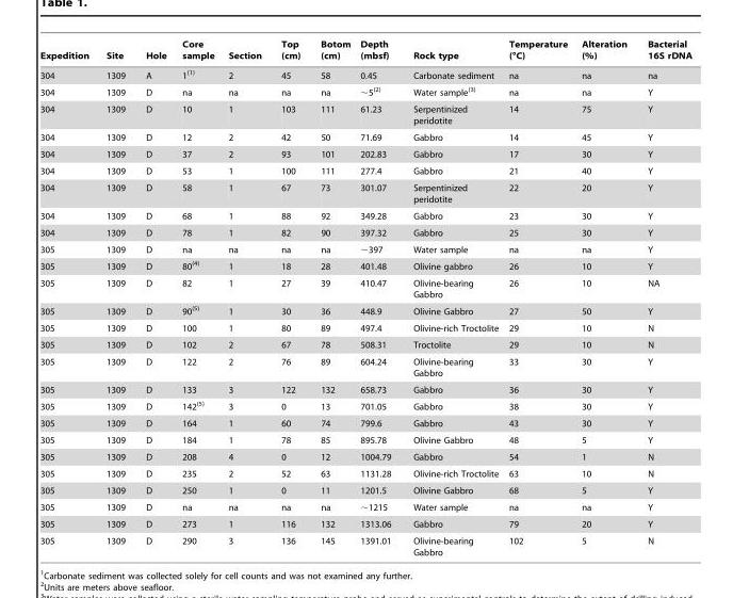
<table><thead><tr><td>Expedition</td><td>Site</td><td>Hole</td><td>Core sample</td><td>Section</td><td>Top (cm)</td><td>Botom (cm)</td><td>Depth (mbsf)</td><td>Rock type</td><td>Temperature (°C)</td><td>Alteration (%)</td><td>Bacterial 16S rDNA</td></tr></thead><tbody><tr><td>304</td><td>1309</td><td>A</td><td>1(1)</td><td>2</td><td>45</td><td>58</td><td>0.45</td><td>Carbonate sediment</td><td>na</td><td>na</td><td>na</td></tr><tr><td>304</td><td>1309</td><td>D</td><td>na</td><td>na</td><td>na</td><td>na</td><td>∼5(2)</td><td>Water sample(3)</td><td>na</td><td>na</td><td>Y</td></tr><tr><td>304</td><td>1309</td><td>D</td><td>10</td><td>1</td><td>103</td><td>111</td><td>61.23</td><td>Serpentinized peridotite</td><td>14</td><td>75</td><td>Y</td></tr><tr><td>304</td><td>1309</td><td>D</td><td>12</td><td>2</td><td>42</td><td>50</td><td>71.69</td><td>Gabbro</td><td>14</td><td>45</td><td>Y</td></tr><tr><td>304</td><td>1309</td><td>D</td><td>37</td><td>2</td><td>93</td><td>101</td><td>202.83</td><td>Gabbro</td><td>17</td><td>30</td><td>Y</td></tr><tr><td>304</td><td>1309</td><td>D</td><td>53</td><td>1</td><td>100</td><td>111</td><td>277.4</td><td>Gabbro</td><td>21</td><td>40</td><td>Y</td></tr><tr><td>304</td><td>1309</td><td>D</td><td>58</td><td>1</td><td>67</td><td>73</td><td>301.07</td><td>Serpentinized peridotite</td><td>22</td><td>20</td><td>Y</td></tr><tr><td>304</td><td>1309</td><td>D</td><td>68</td><td>1</td><td>88</td><td>92</td><td>349.28</td><td>Gabbro</td><td>23</td><td>30</td><td>Y</td></tr><tr><td>304</td><td>1309</td><td>D</td><td>78</td><td>1</td><td>82</td><td>90</td><td>397.32</td><td>Gabbro</td><td>25</td><td>30</td><td>Y</td></tr><tr><td>305</td><td>1309</td><td>D</td><td>na</td><td>na</td><td>na</td><td>na</td><td>∼397</td><td>Water sample</td><td>na</td><td>na</td><td>Y</td></tr><tr><td>305</td><td>1309</td><td>D</td><td>80(4)</td><td>1</td><td>18</td><td>28</td><td>401.48</td><td>Olivine gabbro</td><td>26</td><td>10</td><td>Y</td></tr><tr><td>305</td><td>1309</td><td>D</td><td>82</td><td>1</td><td>27</td><td>39</td><td>410.47</td><td>Olivine-bearing Gabbro</td><td>26</td><td>10</td><td>NA</td></tr><tr><td>305</td><td>1309</td><td>D</td><td>90(5)</td><td>1</td><td>30</td><td>36</td><td>448.9</td><td>Olivine Gabbro</td><td>27</td><td>50</td><td>Y</td></tr><tr><td>305</td><td>1309</td><td>D</td><td>100</td><td>1</td><td>80</td><td>89</td><td>497.4</td><td>Olivine-rich Troctolite</td><td>29</td><td>10</td><td>N</td></tr><tr><td>305</td><td>1309</td><td>D</td><td>102</td><td>2</td><td>67</td><td>78</td><td>508.31</td><td>Troctolite</td><td>29</td><td>10</td><td>N</td></tr><tr><td>305</td><td>1309</td><td>D</td><td>122</td><td>2</td><td>76</td><td>89</td><td>604.24</td><td>Olivine-bearing Gabbro</td><td>33</td><td>30</td><td>Y</td></tr><tr><td>305</td><td>1309</td><td>D</td><td>133</td><td>3</td><td>122</td><td>132</td><td>658.73</td><td>Gabbro</td><td>36</td><td>30</td><td>Y</td></tr><tr><td>305</td><td>1309</td><td>D</td><td>142(5)</td><td>3</td><td>0</td><td>13</td><td>701.05</td><td>Gabbro</td><td>38</td><td>30</td><td>Y</td></tr><tr><td>305</td><td>1309</td><td>D</td><td>164</td><td>1</td><td>60</td><td>74</td><td>799.6</td><td>Gabbro</td><td>43</td><td>30</td><td>Y</td></tr><tr><td>305</td><td>1309</td><td>D</td><td>184</td><td>1</td><td>78</td><td>85</td><td>895.78</td><td>Olivine Gabbro</td><td>48</td><td>5</td><td>Y</td></tr><tr><td>305</td><td>1309</td><td>D</td><td>208</td><td>4</td><td>0</td><td>12</td><td>1004.79</td><td>Gabbro</td><td>54</td><td>1</td><td>N</td></tr><tr><td>305</td><td>1309</td><td>D</td><td>235</td><td>2</td><td>52</td><td>63</td><td>1131.28</td><td>Olivine-rich Troctolite</td><td>63</td><td>10</td><td>N</td></tr><tr><td>305</td><td>1309</td><td>D</td><td>250</td><td>1</td><td>0</td><td>11</td><td>1201.5</td><td>Olivine Gabbro</td><td>68</td><td>5</td><td>Y</td></tr><tr><td>305</td><td>1309</td><td>D</td><td>na</td><td>na</td><td>na</td><td>na</td><td>∼1215</td><td>Water sample</td><td>na</td><td>na</td><td>Y</td></tr><tr><td>305</td><td>1309</td><td>D</td><td>273</td><td>1</td><td>116</td><td>132</td><td>1313.06</td><td>Gabbro</td><td>79</td><td>20</td><td>Y</td></tr><tr><td>305</td><td>1309</td><td>D</td><td>290</td><td>3</td><td>136</td><td>145</td><td>1391.01</td><td>Olivine-bearing Gabbro</td><td>102</td><td>5</td><td>N</td></tr></tbody></table>